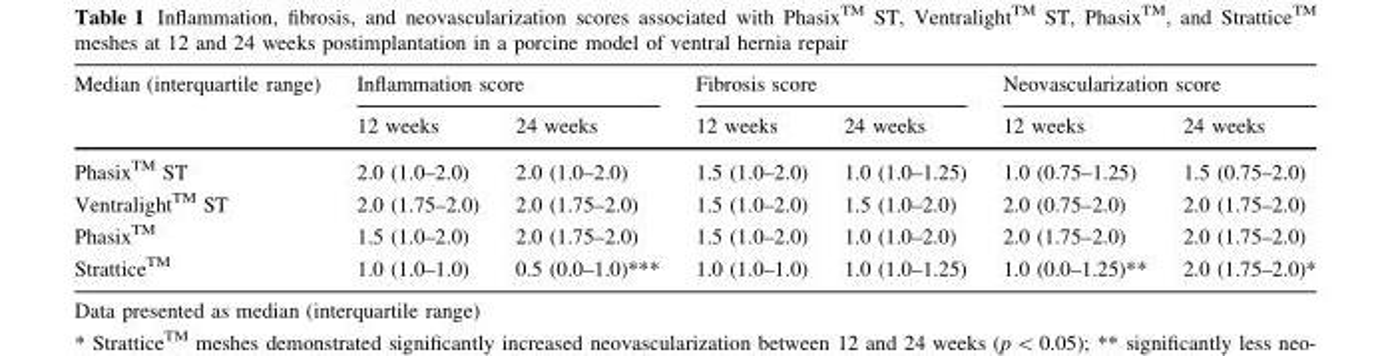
<table><thead><tr><td rowspan="2">Median (interquartile range)</td><td colspan="2">Inflammation score</td><td colspan="2">Fibrosis score</td><td colspan="2">Neovascularization score</td></tr><tr><td>12 weeks</td><td>24 weeks</td><td>12 weeks</td><td>24 weeks</td><td>12 weeks</td><td>24 weeks</td></tr></thead><tbody><tr><td>PhasixTM ST</td><td>2.0 (1.0–2.0)</td><td>2.0 (1.0–2.0)</td><td>1.5 (1.0–2.0)</td><td>1.0 (1.0–1.25)</td><td>1.0 (0.75–1.25)</td><td>1.5 (0.75–2.0)</td></tr><tr><td>VentralightTM ST</td><td>2.0 (1.75–2.0)</td><td>2.0 (1.75–2.0)</td><td>1.5 (1.0–2.0)</td><td>1.5 (1.0–2.0)</td><td>2.0 (0.75–2.0)</td><td>2.0 (1.75–2.0)</td></tr><tr><td>PhasixTM</td><td>1.5 (1.0–2.0)</td><td>2.0 (1.75–2.0)</td><td>1.5 (1.0–2.0)</td><td>1.0 (1.0–2.0)</td><td>2.0 (1.75–2.0)</td><td>2.0 (1.75–2.0)</td></tr><tr><td>StratticeTM</td><td>1.0 (1.0–1.0)</td><td>0.5 (0.0–1.0)***</td><td>1.0 (1.0–1.0)</td><td>1.0 (1.0–1.25)</td><td>1.0 (0.0–1.25)**</td><td>2.0 (1.75–2.0)*</td></tr></tbody></table>